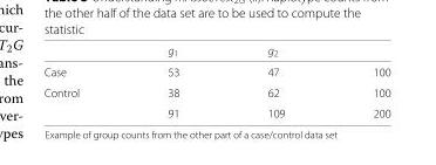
<table><thead><tr><td></td><td>g<sub>1</sub></td><td>g<sub>2</sub></td><td></td></tr></thead><tbody><tr><td>Case</td><td>53</td><td>47</td><td>100</td></tr><tr><td rowspan="2">Control</td><td>38</td><td>62</td><td>100</td></tr><tr><td>91</td><td>109</td><td>200</td></tr></tbody></table>